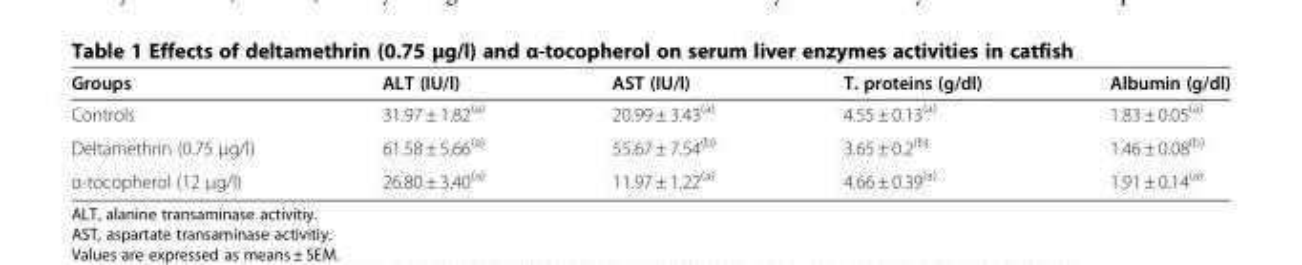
<table><thead><tr><td>Groups</td><td>ALT (IU/l)</td><td>AST (IU/l)</td><td>T. proteins (g/dl)</td><td>Albumin (g/dl)</td></tr></thead><tbody><tr><td>Controls</td><td>31.97 ± 1.82<sup>(a)</sup></td><td>20.99 ± 3.43<sup>(a)</sup></td><td>4.55 ± 0.13<sup>(a)</sup></td><td>1.83 ± 0.05<sup>(a)</sup></td></tr><tr><td>Deltamethrin (0.75 μg/l)</td><td>61.58 ± 5.66<sup>(a)</sup></td><td>55.67 ± 7.54<sup>(b)</sup></td><td>3.65 ± 0.2<sup>(b)</sup></td><td>1.46 ± 0.08<sup>(b)</sup></td></tr><tr><td>α-tocopherol (12 μg/l)</td><td>26.80 ± 3.40<sup>(a)</sup></td><td>11.97 ± 1.22<sup>(a)</sup></td><td>4.66 ± 0.39<sup>(a)</sup></td><td>1.91 ± 0.14<sup>(a)</sup></td></tr></tbody></table>